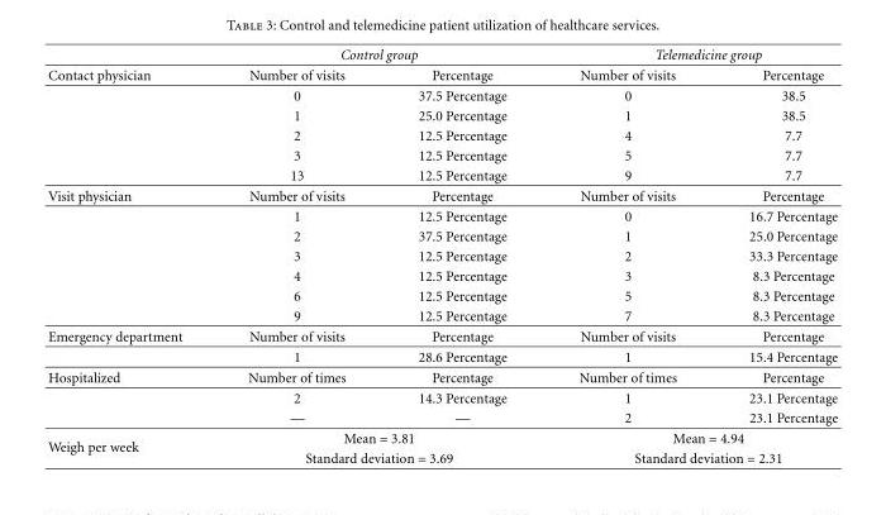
<table><thead><tr><td rowspan="2">Contact physician</td><td colspan="2">Control group</td><td colspan="2">Telemedicine group</td></tr><tr><td>Number of visits</td><td>Percentage</td><td>Number of visits</td><td>Percentage</td></tr></thead><tbody><tr><td></td><td>0</td><td>37.5 Percentage</td><td>0</td><td>38.5</td></tr><tr><td></td><td>1</td><td>25.0 Percentage</td><td>1</td><td>38.5</td></tr><tr><td></td><td>2</td><td>12.5 Percentage</td><td>4</td><td>7.7</td></tr><tr><td></td><td>3</td><td>12.5 Percentage</td><td>5</td><td>7.7</td></tr><tr><td></td><td>13</td><td>12.5 Percentage</td><td>9</td><td>7.7</td></tr><tr><td rowspan="7">Visit physician</td><td>Number of visits</td><td>Percentage</td><td>Number of visits</td><td>Percentage</td></tr><tr><td>1</td><td>12.5 Percentage</td><td>0</td><td>16.7 Percentage</td></tr><tr><td>2</td><td>37.5 Percentage</td><td>1</td><td>25.0 Percentage</td></tr><tr><td>3</td><td>12.5 Percentage</td><td>2</td><td>33.3 Percentage</td></tr><tr><td>4</td><td>12.5 Percentage</td><td>3</td><td>8.3 Percentage</td></tr><tr><td>6</td><td>12.5 Percentage</td><td>5</td><td>8.3 Percentage</td></tr><tr><td>9</td><td>12.5 Percentage</td><td>7</td><td>8.3 Percentage</td></tr><tr><td rowspan="2">Emergency department</td><td>Number of visits</td><td>Percentage</td><td>Number of visits</td><td>Percentage</td></tr><tr><td>1</td><td>28.6 Percentage</td><td>1</td><td>15.4 Percentage</td></tr><tr><td rowspan="3">Hospitalized</td><td>Number of times</td><td>Percentage</td><td>Number of times</td><td>Percentage</td></tr><tr><td>2</td><td>14.3 Percentage</td><td>1</td><td>23.1 Percentage</td></tr><tr><td>—</td><td>—</td><td>2</td><td>23.1 Percentage</td></tr><tr><td rowspan="2">Weigh per week</td><td colspan="2">Mean = 3.81</td><td colspan="2">Mean = 4.94</td></tr><tr><td colspan="2">Standard deviation = 3.69</td><td colspan="2">Standard deviation = 2.31</td></tr></tbody></table>